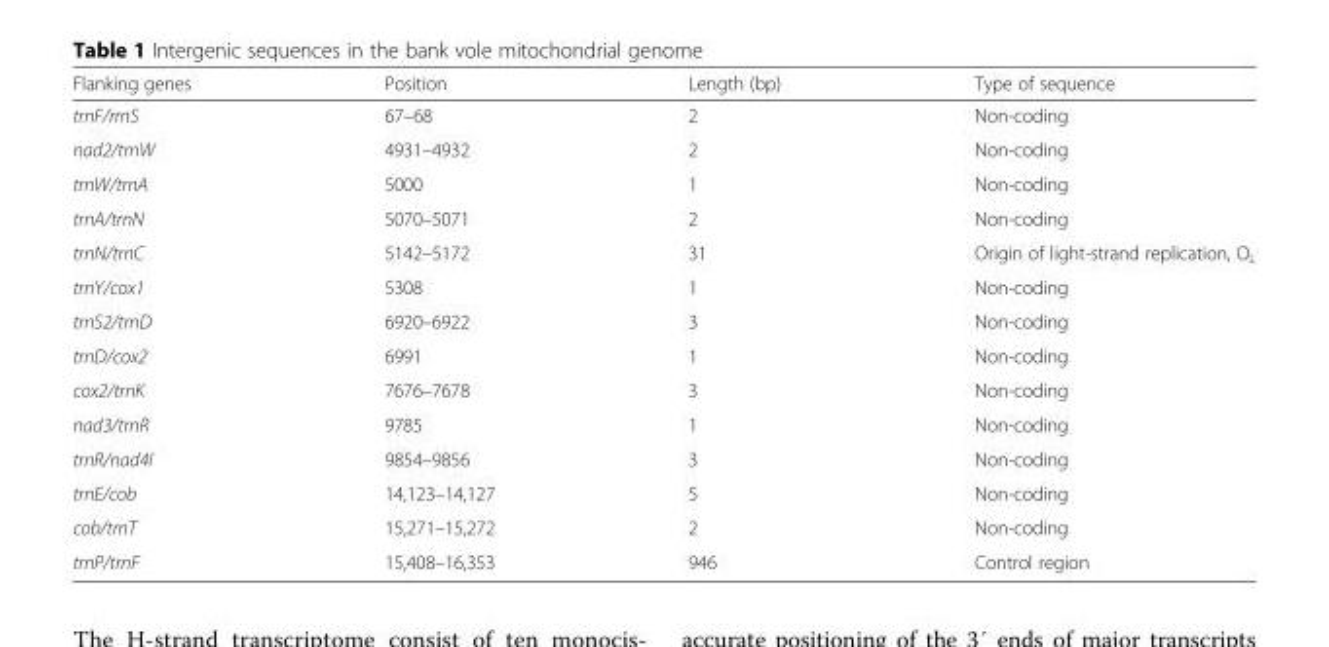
<table><thead><tr><td>Flanking genes</td><td>Position</td><td>Length (bp)</td><td>Type of sequence</td></tr></thead><tbody><tr><td>trnF/rrnS</td><td>67–68</td><td>2</td><td>Non-coding</td></tr><tr><td>nad2/trnW</td><td>4931–4932</td><td>2</td><td>Non-coding</td></tr><tr><td>trnW/trnA</td><td>5000</td><td>1</td><td>Non-coding</td></tr><tr><td>trnA/trnN</td><td>5070–5071</td><td>2</td><td>Non-coding</td></tr><tr><td>trnN/trnC</td><td>5142–5172</td><td>31</td><td>Origin of light-strand replication, O<sub>L</sub></td></tr><tr><td>trnY/cox1</td><td>5308</td><td>1</td><td>Non-coding</td></tr><tr><td>trnS2/trnD</td><td>6920–6922</td><td>3</td><td>Non-coding</td></tr><tr><td>trnD/cox2</td><td>6991</td><td>1</td><td>Non-coding</td></tr><tr><td>cox2/trnK</td><td>7676–7678</td><td>3</td><td>Non-coding</td></tr><tr><td>nad3/trnR</td><td>9785</td><td>1</td><td>Non-coding</td></tr><tr><td>trnR/nad4l</td><td>9854–9856</td><td>3</td><td>Non-coding</td></tr><tr><td>trnE/cob</td><td>14,123–14,127</td><td>5</td><td>Non-coding</td></tr><tr><td>cob/trnT</td><td>15,271–15,272</td><td>2</td><td>Non-coding</td></tr><tr><td>trnP/trnF</td><td>15,408–16,353</td><td>946</td><td>Control region</td></tr></tbody></table>